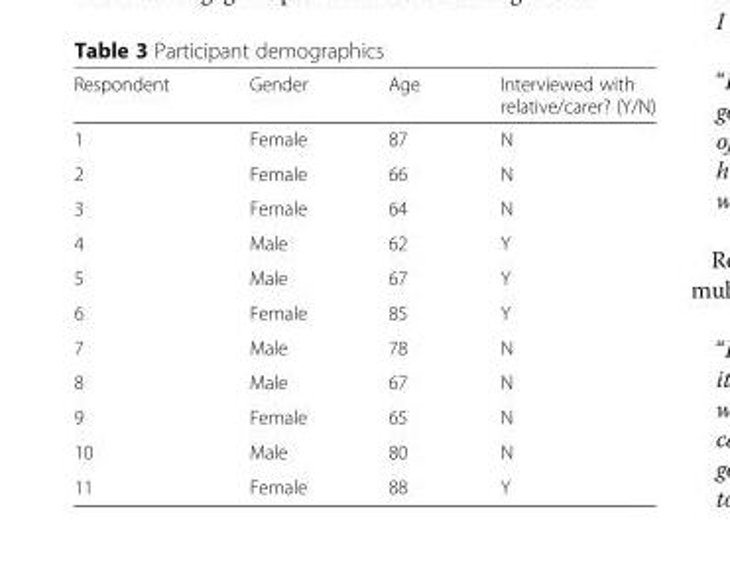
<table><thead><tr><td>Respondent</td><td>Gender</td><td>Age</td><td>Interviewed with relative/carer? (Y/N)</td></tr></thead><tbody><tr><td>1</td><td>Female</td><td>87</td><td>N</td></tr><tr><td>2</td><td>Female</td><td>66</td><td>N</td></tr><tr><td>3</td><td>Female</td><td>64</td><td>N</td></tr><tr><td>4</td><td>Male</td><td>62</td><td>Y</td></tr><tr><td>5</td><td>Male</td><td>67</td><td>Y</td></tr><tr><td>6</td><td>Female</td><td>85</td><td>Y</td></tr><tr><td>7</td><td>Male</td><td>78</td><td>N</td></tr><tr><td>8</td><td>Male</td><td>67</td><td>N</td></tr><tr><td>9</td><td>Female</td><td>65</td><td>N</td></tr><tr><td>10</td><td>Male</td><td>80</td><td>N</td></tr><tr><td>11</td><td>Female</td><td>88</td><td>Y</td></tr></tbody></table>